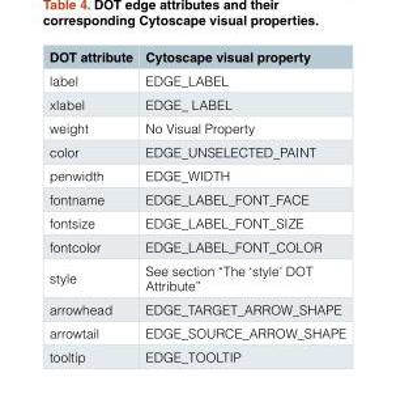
<table><thead><tr><td>DOT attribute</td><td>Cytoscape visual property</td></tr></thead><tbody><tr><td>label</td><td>EDGE_LABEL</td></tr><tr><td>xlabel</td><td>EDGE_ LABEL</td></tr><tr><td>weight</td><td>No Visual Property</td></tr><tr><td>color</td><td>EDGE_UNSELECTED_PAINT</td></tr><tr><td>penwidth</td><td>EDGE_WIDTH</td></tr><tr><td>fontname</td><td>EDGE_LABEL_FONT_FACE</td></tr><tr><td>fontsize</td><td>EDGE_LABEL_FONT_SIZE</td></tr><tr><td>fontcolor</td><td>EDGE_LABEL_FONT_COLOR</td></tr><tr><td>style</td><td>See section “The ‘style’ DOT Attribute”</td></tr><tr><td>arrowhead</td><td>EDGE_TARGET_ARROW_SHAPE</td></tr><tr><td>arrowtail</td><td>EDGE_SOURCE_ARROW_SHAPE</td></tr><tr><td>tooltip</td><td>EDGE_TOOLTIP</td></tr></tbody></table>